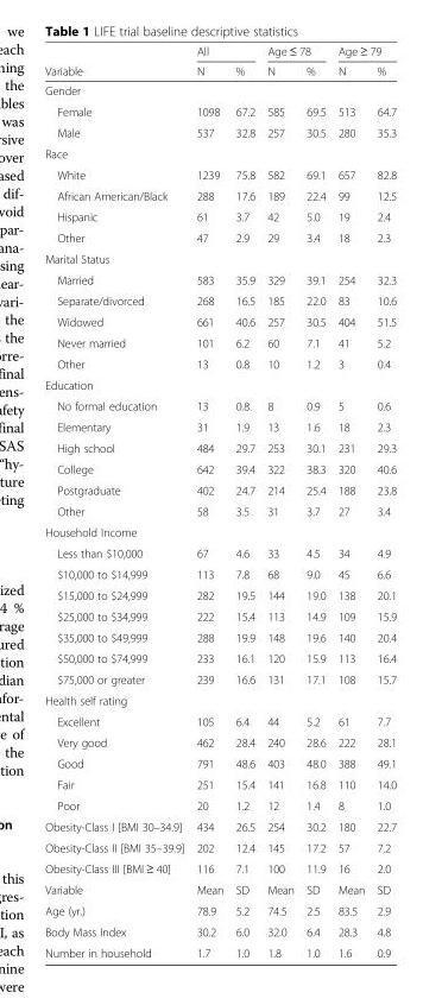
<table><thead><tr><td rowspan="2">Variable</td><td colspan="2">All</td><td colspan="2">Age ≤ 78</td><td colspan="2">Age ≥ 79</td></tr><tr><td>N</td><td>%</td><td>N</td><td>%</td><td>N</td><td>%</td></tr></thead><tbody><tr><td colspan="7">Gender</td></tr><tr><td>Female</td><td>1098</td><td>67.2</td><td>585</td><td>69.5</td><td>513</td><td>64.7</td></tr><tr><td>Male</td><td>537</td><td>32.8</td><td>257</td><td>30.5</td><td>280</td><td>35.3</td></tr><tr><td colspan="7">Race</td></tr><tr><td>White</td><td>1239</td><td>75.8</td><td>582</td><td>69.1</td><td>657</td><td>82.8</td></tr><tr><td>African American/Black</td><td>288</td><td>17.6</td><td>189</td><td>22.4</td><td>99</td><td>12.5</td></tr><tr><td>Hispanic</td><td>61</td><td>3.7</td><td>42</td><td>5.0</td><td>19</td><td>2.4</td></tr><tr><td>Other</td><td>47</td><td>2.9</td><td>29</td><td>3.4</td><td>18</td><td>2.3</td></tr><tr><td colspan="7">Marital Status</td></tr><tr><td>Married</td><td>583</td><td>35.9</td><td>329</td><td>39.1</td><td>254</td><td>32.3</td></tr><tr><td>Separate/divorced</td><td>268</td><td>16.5</td><td>185</td><td>22.0</td><td>83</td><td>10.6</td></tr><tr><td>Widowed</td><td>661</td><td>40.6</td><td>257</td><td>30.5</td><td>404</td><td>51.5</td></tr><tr><td>Never married</td><td>101</td><td>6.2</td><td>60</td><td>7.1</td><td>41</td><td>5.2</td></tr><tr><td>Other</td><td>13</td><td>0.8</td><td>10</td><td>1.2</td><td>3</td><td>0.4</td></tr><tr><td colspan="7">Education</td></tr><tr><td>No formal education</td><td>13</td><td>0.8</td><td>8</td><td>0.9</td><td>5</td><td>0.6</td></tr><tr><td>Elementary</td><td>31</td><td>1.9</td><td>13</td><td>1.6</td><td>18</td><td>2.3</td></tr><tr><td>High school</td><td>484</td><td>29.7</td><td>253</td><td>30.1</td><td>231</td><td>29.3</td></tr><tr><td>College</td><td>642</td><td>39.4</td><td>322</td><td>38.3</td><td>320</td><td>40.6</td></tr><tr><td>Postgraduate</td><td>402</td><td>24.7</td><td>214</td><td>25.4</td><td>188</td><td>23.8</td></tr><tr><td>Other</td><td>58</td><td>3.5</td><td>31</td><td>3.7</td><td>27</td><td>3.4</td></tr><tr><td colspan="7">Household Income</td></tr><tr><td>Less than $10,000</td><td>67</td><td>4.6</td><td>33</td><td>4.5</td><td>34</td><td>4.9</td></tr><tr><td>$10,000 to $14,999</td><td>113</td><td>7.8</td><td>68</td><td>9.0</td><td>45</td><td>6.6</td></tr><tr><td>$15,000 to $24,999</td><td>282</td><td>19.5</td><td>144</td><td>19.0</td><td>138</td><td>20.1</td></tr><tr><td>$25,000 to $34,999</td><td>222</td><td>15.4</td><td>113</td><td>14.9</td><td>109</td><td>15.9</td></tr><tr><td>$35,000 to $49,999</td><td>288</td><td>19.9</td><td>148</td><td>19.6</td><td>140</td><td>20.4</td></tr><tr><td>$50,000 to $74,999</td><td>233</td><td>16.1</td><td>120</td><td>15.9</td><td>113</td><td>16.4</td></tr><tr><td>$75,000 or greater</td><td>239</td><td>16.6</td><td>131</td><td>17.1</td><td>108</td><td>15.7</td></tr><tr><td colspan="7">Health self rating</td></tr><tr><td>Excellent</td><td>105</td><td>6.4</td><td>44</td><td>5.2</td><td>61</td><td>7.7</td></tr><tr><td>Very good</td><td>462</td><td>28.4</td><td>240</td><td>28.6</td><td>222</td><td>28.1</td></tr><tr><td>Good</td><td>791</td><td>48.6</td><td>403</td><td>48.0</td><td>388</td><td>49.1</td></tr><tr><td>Fair</td><td>251</td><td>15.4</td><td>141</td><td>16.8</td><td>110</td><td>14.0</td></tr><tr><td>Poor</td><td>20</td><td>1.2</td><td>12</td><td>1.4</td><td>8</td><td>1.0</td></tr><tr><td>Obesity-Class I [BMI 30–34.9]</td><td>434</td><td>26.5</td><td>254</td><td>30.2</td><td>180</td><td>22.7</td></tr><tr><td>Obesity-Class II [BMI 35–39.9]</td><td>202</td><td>12.4</td><td>145</td><td>17.2</td><td>57</td><td>7.2</td></tr><tr><td>Obesity-Class III [BMI ≥ 40]</td><td>116</td><td>7.1</td><td>100</td><td>11.9</td><td>16</td><td>2.0</td></tr><tr><td>Variable</td><td>Mean</td><td>SD</td><td>Mean</td><td>SD</td><td>Mean</td><td>SD</td></tr><tr><td>Age (yr.)</td><td>78.9</td><td>5.2</td><td>74.5</td><td>2.5</td><td>83.5</td><td>2.9</td></tr><tr><td>Body Mass Index</td><td>30.2</td><td>6.0</td><td>32.0</td><td>6.4</td><td>28.3</td><td>4.8</td></tr><tr><td>Number in household</td><td>1.7</td><td>1.0</td><td>1.8</td><td>1.0</td><td>1.6</td><td>0.9</td></tr></tbody></table>